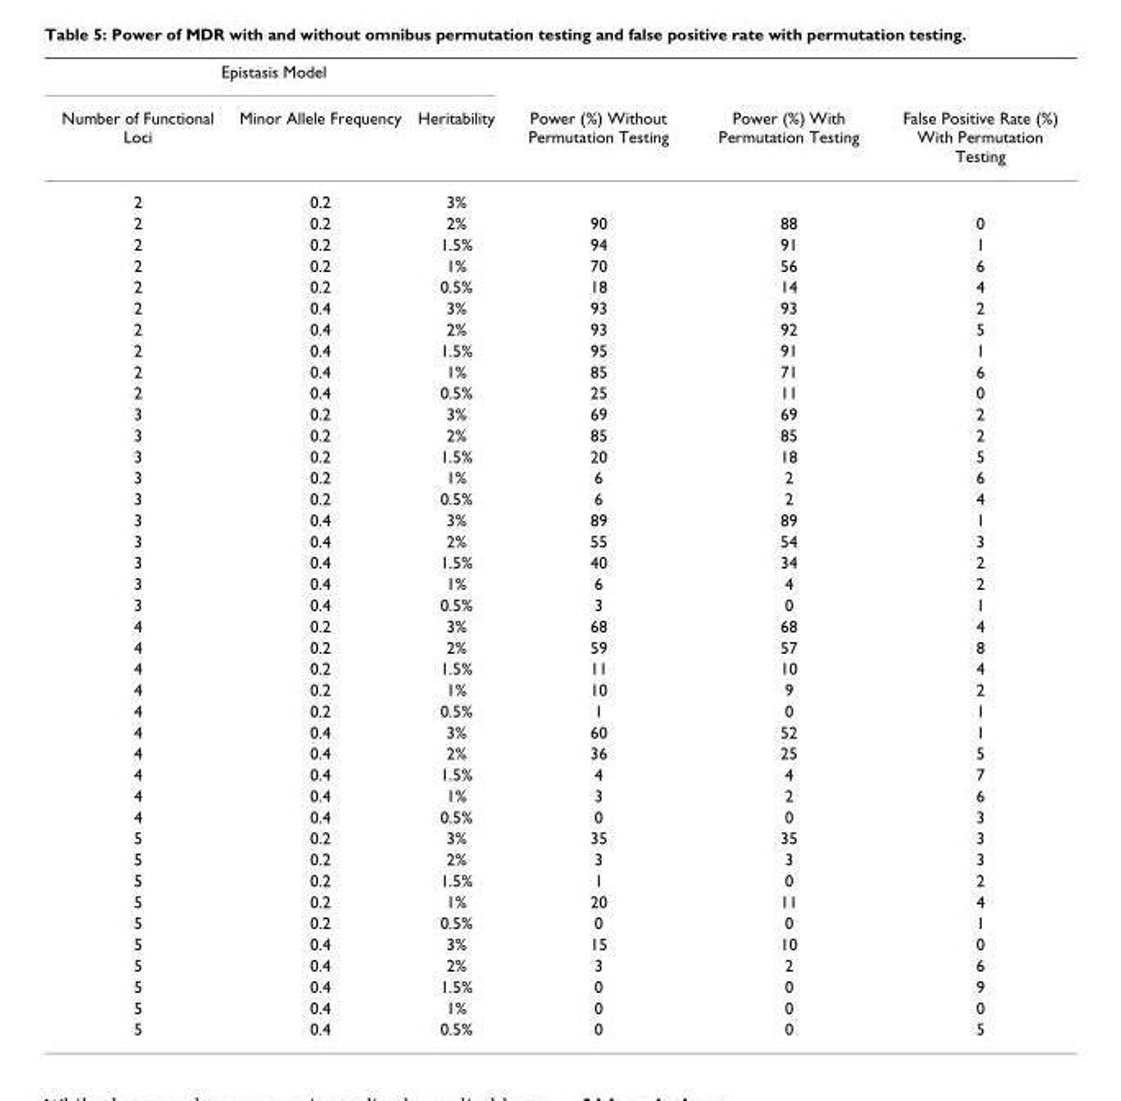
<table><thead><tr><td colspan="3">Epistasis Model</td><td rowspan="2">Power (%) Without Permutation Testing</td><td rowspan="2">Power (%) With Permutation Testing</td><td rowspan="2">False Positive Rate (%) With Permutation Testing</td></tr><tr><td>Number of Functional Loci</td><td>Minor Allele Frequency</td><td>Heritability</td></tr></thead><tbody><tr><td>2</td><td>0.2</td><td>3%</td><td></td><td></td><td></td></tr><tr><td>2</td><td>0.2</td><td>2%</td><td>90</td><td>88</td><td>0</td></tr><tr><td>2</td><td>0.2</td><td>1.5%</td><td>94</td><td>91</td><td>1</td></tr><tr><td>2</td><td>0.2</td><td>1%</td><td>70</td><td>56</td><td>6</td></tr><tr><td>2</td><td>0.2</td><td>0.5%</td><td>18</td><td>14</td><td>4</td></tr><tr><td>2</td><td>0.4</td><td>3%</td><td>93</td><td>93</td><td>2</td></tr><tr><td>2</td><td>0.4</td><td>2%</td><td>93</td><td>92</td><td>5</td></tr><tr><td>2</td><td>0.4</td><td>1.5%</td><td>95</td><td>91</td><td>1</td></tr><tr><td>2</td><td>0.4</td><td>1%</td><td>85</td><td>71</td><td>6</td></tr><tr><td>2</td><td>0.4</td><td>0.5%</td><td>25</td><td>11</td><td>0</td></tr><tr><td>3</td><td>0.2</td><td>3%</td><td>69</td><td>69</td><td>2</td></tr><tr><td>3</td><td>0.2</td><td>2%</td><td>85</td><td>85</td><td>2</td></tr><tr><td>3</td><td>0.2</td><td>1.5%</td><td>20</td><td>18</td><td>5</td></tr><tr><td>3</td><td>0.2</td><td>1%</td><td>6</td><td>2</td><td>6</td></tr><tr><td>3</td><td>0.2</td><td>0.5%</td><td>6</td><td>2</td><td>4</td></tr><tr><td>3</td><td>0.4</td><td>3%</td><td>89</td><td>89</td><td>1</td></tr><tr><td>3</td><td>0.4</td><td>2%</td><td>55</td><td>54</td><td>3</td></tr><tr><td>3</td><td>0.4</td><td>1.5%</td><td>40</td><td>34</td><td>2</td></tr><tr><td>3</td><td>0.4</td><td>1%</td><td>6</td><td>4</td><td>2</td></tr><tr><td>3</td><td>0.4</td><td>0.5%</td><td>3</td><td>0</td><td>1</td></tr><tr><td>4</td><td>0.2</td><td>3%</td><td>68</td><td>68</td><td>4</td></tr><tr><td>4</td><td>0.2</td><td>2%</td><td>59</td><td>57</td><td>8</td></tr><tr><td>4</td><td>0.2</td><td>1.5%</td><td>11</td><td>10</td><td>4</td></tr><tr><td>4</td><td>0.2</td><td>1%</td><td>10</td><td>9</td><td>2</td></tr><tr><td>4</td><td>0.2</td><td>0.5%</td><td>1</td><td>0</td><td>1</td></tr><tr><td>4</td><td>0.4</td><td>3%</td><td>60</td><td>52</td><td>1</td></tr><tr><td>4</td><td>0.4</td><td>2%</td><td>36</td><td>25</td><td>5</td></tr><tr><td>4</td><td>0.4</td><td>1.5%</td><td>4</td><td>4</td><td>7</td></tr><tr><td>4</td><td>0.4</td><td>1%</td><td>3</td><td>2</td><td>6</td></tr><tr><td>4</td><td>0.4</td><td>0.5%</td><td>0</td><td>0</td><td>3</td></tr><tr><td>5</td><td>0.2</td><td>3%</td><td>35</td><td>35</td><td>3</td></tr><tr><td>5</td><td>0.2</td><td>2%</td><td>3</td><td>3</td><td>3</td></tr><tr><td>5</td><td>0.2</td><td>1.5%</td><td>1</td><td>0</td><td>2</td></tr><tr><td>5</td><td>0.2</td><td>1%</td><td>20</td><td>11</td><td>4</td></tr><tr><td>5</td><td>0.2</td><td>0.5%</td><td>0</td><td>0</td><td>1</td></tr><tr><td>5</td><td>0.4</td><td>3%</td><td>15</td><td>10</td><td>0</td></tr><tr><td>5</td><td>0.4</td><td>2%</td><td>3</td><td>2</td><td>6</td></tr><tr><td>5</td><td>0.4</td><td>1.5%</td><td>0</td><td>0</td><td>9</td></tr><tr><td>5</td><td>0.4</td><td>1%</td><td>0</td><td>0</td><td>0</td></tr><tr><td>5</td><td>0.4</td><td>0.5%</td><td>0</td><td>0</td><td>5</td></tr></tbody></table>